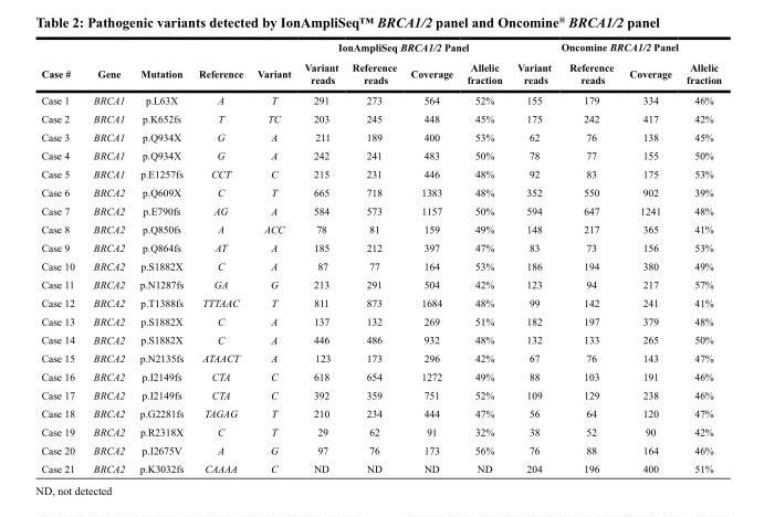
<table><thead><tr><td rowspan="2">Case #</td><td rowspan="2">Gene</td><td rowspan="2">Mutation</td><td rowspan="2">Reference</td><td rowspan="2">Variant</td><td colspan="4">IonAmpliSeq BRCA1/2 Panel</td><td colspan="4">Oncomine BRCA1/2 Panel</td></tr><tr><td>Variant reads</td><td>Reference reads</td><td>Coverage</td><td>Allelic fraction</td><td>Variant reads</td><td>Reference reads</td><td>Coverage</td><td>Allelic fraction</td></tr></thead><tbody><tr><td>Case 1</td><td>BRCA1</td><td>p.L63X</td><td>A</td><td>T</td><td>291</td><td>273</td><td>564</td><td>52%</td><td>155</td><td>179</td><td>334</td><td>46%</td></tr><tr><td>Case 2</td><td>BRCA1</td><td>p.K652fs</td><td>T</td><td>TC</td><td>203</td><td>245</td><td>448</td><td>45%</td><td>175</td><td>242</td><td>417</td><td>42%</td></tr><tr><td>Case 3</td><td>BRCA1</td><td>p.Q934X</td><td>G</td><td>A</td><td>211</td><td>189</td><td>400</td><td>53%</td><td>62</td><td>76</td><td>138</td><td>45%</td></tr><tr><td>Case 4</td><td>BRCA1</td><td>p.Q934X</td><td>G</td><td>A</td><td>242</td><td>241</td><td>483</td><td>50%</td><td>78</td><td>77</td><td>155</td><td>50%</td></tr><tr><td>Case 5</td><td>BRCA1</td><td>p.E1257fs</td><td>CCT</td><td>C</td><td>215</td><td>231</td><td>446</td><td>48%</td><td>92</td><td>83</td><td>175</td><td>53%</td></tr><tr><td>Case 6</td><td>BRCA2</td><td>p.Q609X</td><td>C</td><td>T</td><td>665</td><td>718</td><td>1383</td><td>48%</td><td>352</td><td>550</td><td>902</td><td>39%</td></tr><tr><td>Case 7</td><td>BRCA2</td><td>p.E790fs</td><td>AG</td><td>A</td><td>584</td><td>573</td><td>1157</td><td>50%</td><td>594</td><td>647</td><td>1241</td><td>48%</td></tr><tr><td>Case 8</td><td>BRCA2</td><td>p.Q850fs</td><td>A</td><td>ACC</td><td>78</td><td>81</td><td>159</td><td>49%</td><td>148</td><td>217</td><td>365</td><td>41%</td></tr><tr><td>Case 9</td><td>BRCA2</td><td>p.Q864fs</td><td>AT</td><td>A</td><td>185</td><td>212</td><td>397</td><td>47%</td><td>83</td><td>73</td><td>156</td><td>53%</td></tr><tr><td>Case 10</td><td>BRCA2</td><td>p.S1882X</td><td>C</td><td>A</td><td>87</td><td>77</td><td>164</td><td>53%</td><td>186</td><td>194</td><td>380</td><td>49%</td></tr><tr><td>Case 11</td><td>BRCA2</td><td>p.N1287fs</td><td>GA</td><td>G</td><td>213</td><td>291</td><td>504</td><td>42%</td><td>123</td><td>94</td><td>217</td><td>57%</td></tr><tr><td>Case 12</td><td>BRCA2</td><td>p.T1388fs</td><td>TTTAAC</td><td>T</td><td>811</td><td>873</td><td>1684</td><td>48%</td><td>99</td><td>142</td><td>241</td><td>41%</td></tr><tr><td>Case 13</td><td>BRCA2</td><td>p.S1882X</td><td>C</td><td>A</td><td>137</td><td>132</td><td>269</td><td>51%</td><td>182</td><td>197</td><td>379</td><td>48%</td></tr><tr><td>Case 14</td><td>BRCA2</td><td>p.S1882X</td><td>C</td><td>A</td><td>446</td><td>486</td><td>932</td><td>48%</td><td>132</td><td>133</td><td>265</td><td>50%</td></tr><tr><td>Case 15</td><td>BRCA2</td><td>p.N2135fs</td><td>ATAACT</td><td>A</td><td>123</td><td>173</td><td>296</td><td>42%</td><td>67</td><td>76</td><td>143</td><td>47%</td></tr><tr><td>Case 16</td><td>BRCA2</td><td>p.I2149fs</td><td>CTA</td><td>C</td><td>618</td><td>654</td><td>1272</td><td>49%</td><td>88</td><td>103</td><td>191</td><td>46%</td></tr><tr><td>Case 17</td><td>BRCA2</td><td>p.I2149fs</td><td>CTA</td><td>C</td><td>392</td><td>359</td><td>751</td><td>52%</td><td>109</td><td>129</td><td>238</td><td>46%</td></tr><tr><td>Case 18</td><td>BRCA2</td><td>p.G2281fs</td><td>TAGAG</td><td>T</td><td>210</td><td>234</td><td>444</td><td>47%</td><td>56</td><td>64</td><td>120</td><td>47%</td></tr><tr><td>Case 19</td><td>BRCA2</td><td>p.R2318X</td><td>C</td><td>T</td><td>29</td><td>62</td><td>91</td><td>32%</td><td>38</td><td>52</td><td>90</td><td>42%</td></tr><tr><td>Case 20</td><td>BRCA2</td><td>p.I2675V</td><td>A</td><td>G</td><td>97</td><td>76</td><td>173</td><td>56%</td><td>76</td><td>88</td><td>164</td><td>46%</td></tr><tr><td>Case 21</td><td>BRCA2</td><td>p.K3032fs</td><td>CAAAA</td><td>C</td><td>ND</td><td>ND</td><td>ND</td><td>ND</td><td>204</td><td>196</td><td>400</td><td>51%</td></tr></tbody></table>